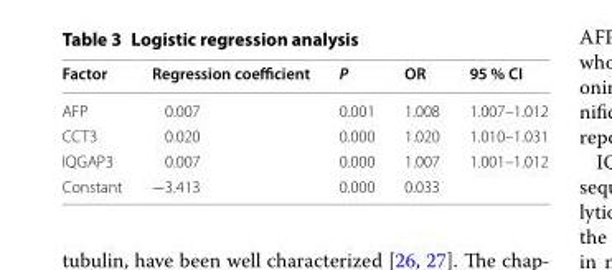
<table><thead><tr><td>Factor</td><td>Regression coefficient</td><td>P</td><td>OR</td><td>95 % CI</td></tr></thead><tbody><tr><td>AFP</td><td>0.007</td><td>0.001</td><td>1.008</td><td>1.007–1.012</td></tr><tr><td>CCT3</td><td>0.020</td><td>0.000</td><td>1.020</td><td>1.010–1.031</td></tr><tr><td>IQGAP3</td><td>0.007</td><td>0.000</td><td>1.007</td><td>1.001–1.012</td></tr><tr><td>Constant</td><td>−3.413</td><td>0.000</td><td>0.033</td><td></td></tr></tbody></table>